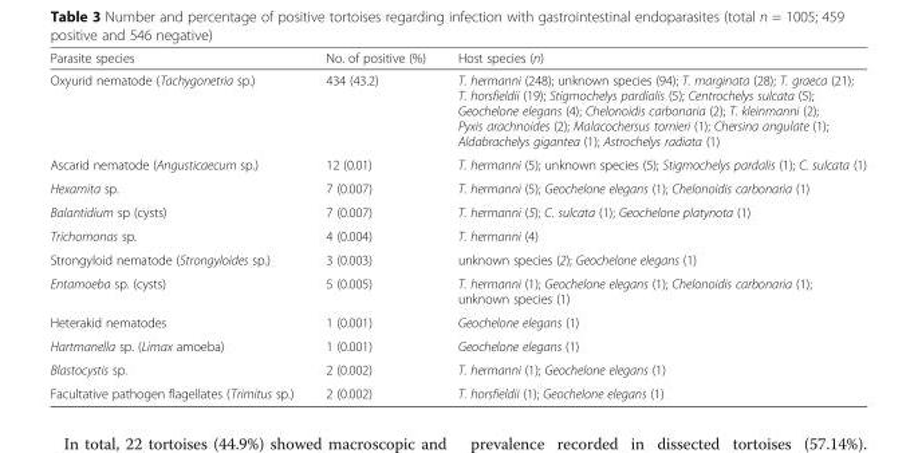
<table><thead><tr><td>Parasite species</td><td>No. of positive (%)</td><td>Host species (n)</td></tr></thead><tbody><tr><td>Oxyurid nematode (Tachygonetria sp.)</td><td>434 (43.2)</td><td>T. hermanni (248); unknown species (94); T. marginata (28); T. graeca (21); T. horsfieldii (19); Stigmochelys pardialis (5); Centrochelys sulcata (5); Geochelone elegans (4); Chelonoidis carbonaria (2); T. kleinmanni (2); Pyxis arachnoides (2); Malacochersus tornieri (1); Chersina angulate (1); Aldabrachelys gigantea (1); Astrochelys radiata (1)</td></tr><tr><td>Ascarid nematode (Angusticaecum sp.)</td><td>12 (0.01)</td><td>T. hermanni (5); unknown species (5); Stigmochelys pardalis (1); C. sulcata (1)</td></tr><tr><td>Hexamita sp.</td><td>7 (0.007)</td><td>T. hermanni (5); Geochelone elegans (1); Chelonoidis carbonaria (1)</td></tr><tr><td>Balantidium sp (cysts)</td><td>7 (0.007)</td><td>T. hermanni (5); C. sulcata (1); Geochelone platynota (1)</td></tr><tr><td>Trichomonas sp.</td><td>4 (0.004)</td><td>T. hermanni (4)</td></tr><tr><td>Strongyloid nematode (Strongyloides sp.)</td><td>3 (0.003)</td><td>unknown species (2); Geochelone elegans (1)</td></tr><tr><td>Entamoeba sp. (cysts)</td><td>5 (0.005)</td><td>T. hermanni (1); Geochelone elegans (1); Chelonoidis carbonaria (1); unknown species (1)</td></tr><tr><td>Heterakid nematodes</td><td>1 (0.001)</td><td>Geochelone elegans (1)</td></tr><tr><td>Hartmanella sp. (Limax amoeba)</td><td>1 (0.001)</td><td>Geochelone elegans (1)</td></tr><tr><td>Blastocystis sp.</td><td>2 (0.002)</td><td>T. hermanni (1); Geochelone elegans (1)</td></tr><tr><td>Facultative pathogen flagellates (Trimitus sp.)</td><td>2 (0.002)</td><td>T. horsfieldii (1); Geochelone elegans (1)</td></tr></tbody></table>